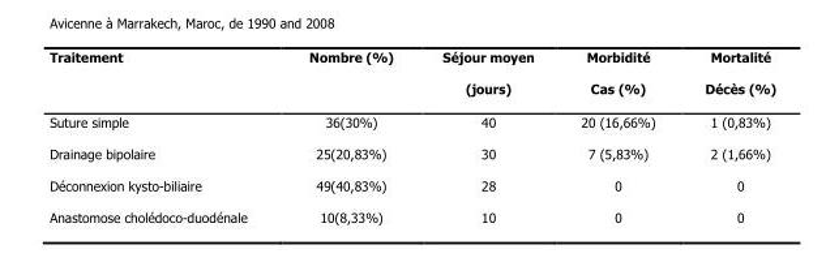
<table><thead><tr><td>Traitement</td><td>Nombre (%)</td><td>Séjour moyen (jours)</td><td>Morbidité Cas (%)</td><td>Mortalité Décès (%)</td></tr></thead><tbody><tr><td>Suture simple</td><td>36(30%)</td><td>40</td><td>20 (16,66%)</td><td>1 (0,83%)</td></tr><tr><td>Drainage bipolaire</td><td>25(20,83%)</td><td>30</td><td>7 (5,83%)</td><td>2 (1,66%)</td></tr><tr><td>Déconnexion kysto-biliaire</td><td>49(40,83%)</td><td>28</td><td>0</td><td>0</td></tr><tr><td>Anastomose cholédoco-duodénale</td><td>10(8,33%)</td><td>10</td><td>0</td><td>0</td></tr></tbody></table>